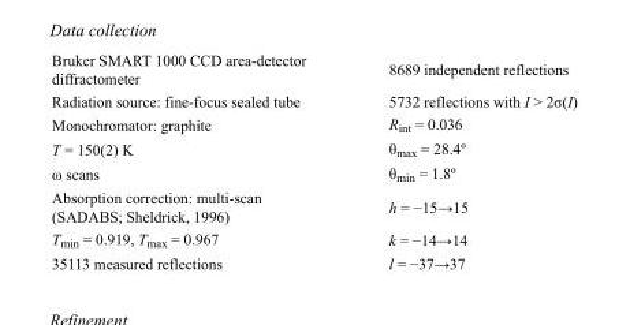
<table><tbody><tr><td>Bruker SMART 1000 CCD area-detector diffractometer</td><td>8689 independent reflections</td></tr><tr><td>Radiation source: fine-focus sealed tube</td><td>5732 reflections with I &gt; 2σ(I)</td></tr><tr><td>Monochromator: graphite</td><td>R<sub>int</sub> = 0.036</td></tr><tr><td>T = 150(2) K</td><td>θ<sub>max</sub> = 28.4º</td></tr><tr><td>ω scans</td><td>θ<sub>min</sub> = 1.8º</td></tr><tr><td>Absorption correction: multi-scan (SADABS; Sheldrick, 1996)</td><td>h = −15→15</td></tr><tr><td>T<sub>min</sub> = 0.919, T<sub>max</sub> = 0.967</td><td>k = −14→14</td></tr><tr><td>35113 measured reflections</td><td>l = −37→37</td></tr></tbody></table>